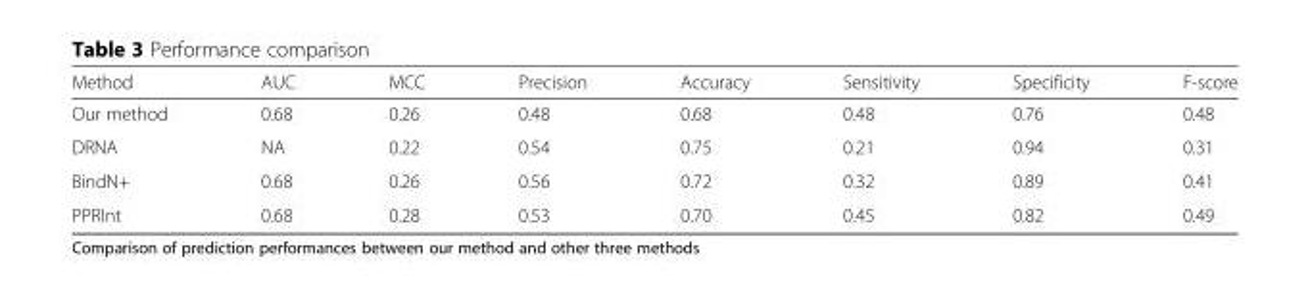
<table><thead><tr><td>Method</td><td>AUC</td><td>MCC</td><td>Precision</td><td>Accuracy</td><td>Sensitivity</td><td>Specificity</td><td>F-score</td></tr></thead><tbody><tr><td>Our method</td><td>0.68</td><td>0.26</td><td>0.48</td><td>0.68</td><td>0.48</td><td>0.76</td><td>0.48</td></tr><tr><td>DRNA</td><td>NA</td><td>0.22</td><td>0.54</td><td>0.75</td><td>0.21</td><td>0.94</td><td>0.31</td></tr><tr><td>BindN+</td><td>0.68</td><td>0.26</td><td>0.56</td><td>0.72</td><td>0.32</td><td>0.89</td><td>0.41</td></tr><tr><td>PPRInt</td><td>0.68</td><td>0.28</td><td>0.53</td><td>0.70</td><td>0.45</td><td>0.82</td><td>0.49</td></tr></tbody></table>